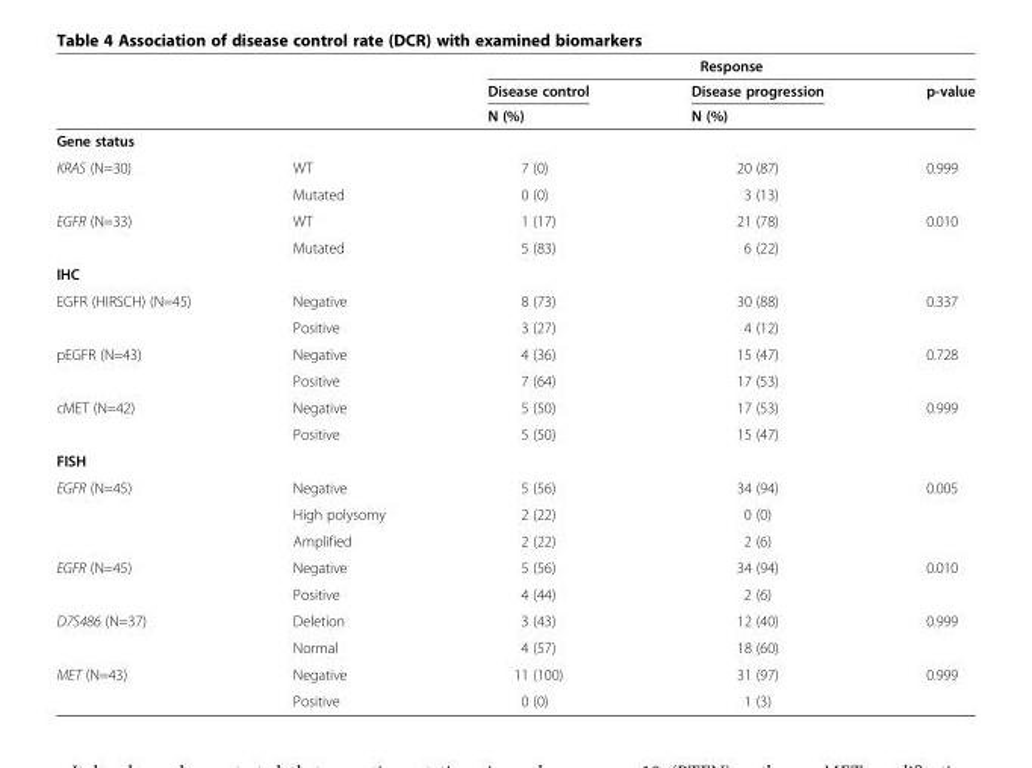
<table><thead><tr><td rowspan="3"></td><td rowspan="3"></td><td colspan="3">Response</td></tr><tr><td rowspan="2">Disease control N (%)</td><td rowspan="2">Disease progression N (%)</td><td rowspan="2">p-value</td></tr><tr></tr></thead><tbody><tr><td colspan="5">Gene status</td></tr><tr><td rowspan="2">KRAS (N=30)</td><td>WT</td><td>7 (0)</td><td>20 (87)</td><td>0.999</td></tr><tr><td>Mutated</td><td>0 (0)</td><td>3 (13)</td><td></td></tr><tr><td rowspan="2">EGFR (N=33)</td><td>WT</td><td>1 (17)</td><td>21 (78)</td><td>0.010</td></tr><tr><td>Mutated</td><td>5 (83)</td><td>6 (22)</td><td></td></tr><tr><td colspan="5">IHC</td></tr><tr><td rowspan="2">EGFR (HIRSCH) (N=45)</td><td>Negative</td><td>8 (73)</td><td>30 (88)</td><td>0.337</td></tr><tr><td>Positive</td><td>3 (27)</td><td>4 (12)</td><td></td></tr><tr><td rowspan="2">pEGFR (N=43)</td><td>Negative</td><td>4 (36)</td><td>15 (47)</td><td>0.728</td></tr><tr><td>Positive</td><td>7 (64)</td><td>17 (53)</td><td></td></tr><tr><td rowspan="2">cMET (N=42)</td><td>Negative</td><td>5 (50)</td><td>17 (53)</td><td>0.999</td></tr><tr><td>Positive</td><td>5 (50)</td><td>15 (47)</td><td></td></tr><tr><td colspan="5">FISH</td></tr><tr><td rowspan="3">EGFR (N=45)</td><td>Negative</td><td>5 (56)</td><td>34 (94)</td><td>0.005</td></tr><tr><td>High polysomy</td><td>2 (22)</td><td>0 (0)</td><td></td></tr><tr><td>Amplified</td><td>2 (22)</td><td>2 (6)</td><td></td></tr><tr><td rowspan="2">EGFR (N=45)</td><td>Negative</td><td>5 (56)</td><td>34 (94)</td><td>0.010</td></tr><tr><td>Positive</td><td>4 (44)</td><td>2 (6)</td><td></td></tr><tr><td rowspan="2">D7S486 (N=37)</td><td>Deletion</td><td>3 (43)</td><td>12 (40)</td><td>0.999</td></tr><tr><td>Normal</td><td>4 (57)</td><td>18 (60)</td><td></td></tr><tr><td rowspan="2">MET (N=43)</td><td>Negative</td><td>11 (100)</td><td>31 (97)</td><td>0.999</td></tr><tr><td>Positive</td><td>0 (0)</td><td>1 (3)</td><td></td></tr></tbody></table>